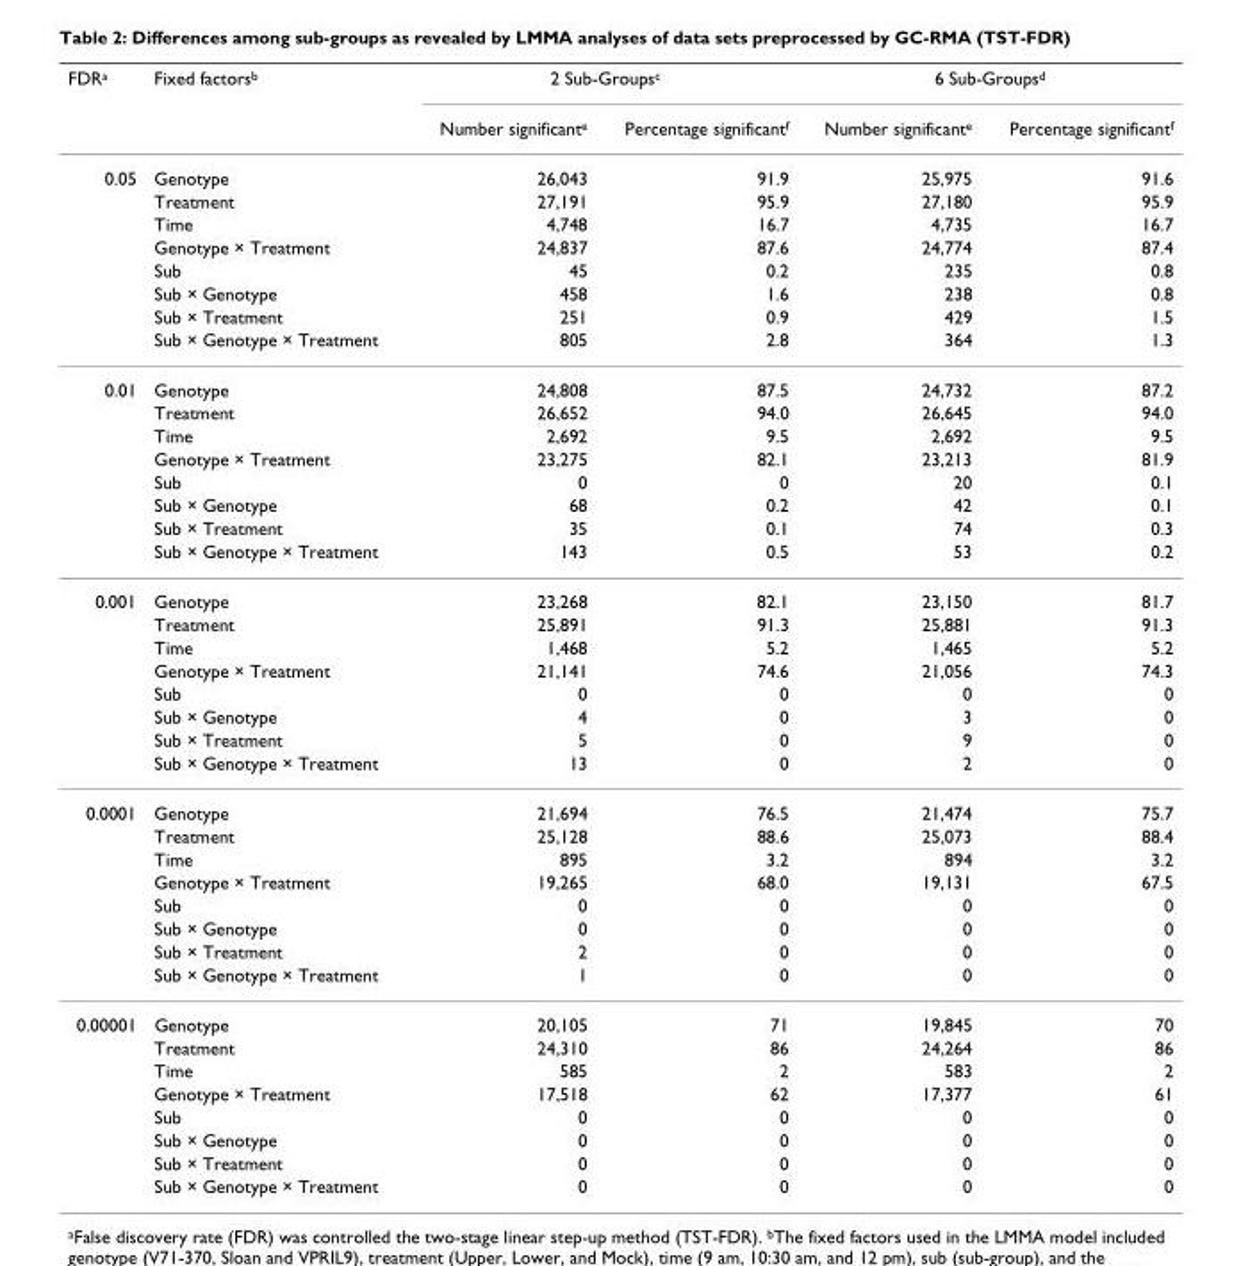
<table><thead><tr><td rowspan="2">FDR<sup>a</sup></td><td rowspan="2">Fixed factors<sup>b</sup></td><td colspan="2">2 Sub-Groups<sup>c</sup></td><td colspan="2">6 Sub-Groups<sup>d</sup></td></tr><tr><td>Number significant<sup>e</sup></td><td>Percentage significant<sup>f</sup></td><td>Number significant<sup>e</sup></td><td>Percentage significant<sup>f</sup></td></tr></thead><tbody><tr><td rowspan="8">0.05</td><td>Genotype</td><td>26,043</td><td>91.9</td><td>25,975</td><td>91.6</td></tr><tr><td>Treatment</td><td>27,191</td><td>95.9</td><td>27,180</td><td>95.9</td></tr><tr><td>Time</td><td>4,748</td><td>16.7</td><td>4,735</td><td>16.7</td></tr><tr><td>Genotype × Treatment</td><td>24,837</td><td>87.6</td><td>24,774</td><td>87.4</td></tr><tr><td>Sub</td><td>45</td><td>0.2</td><td>235</td><td>0.8</td></tr><tr><td>Sub × Genotype</td><td>458</td><td>1.6</td><td>238</td><td>0.8</td></tr><tr><td>Sub × Treatment</td><td>251</td><td>0.9</td><td>429</td><td>1.5</td></tr><tr><td>Sub × Genotype × Treatment</td><td>805</td><td>2.8</td><td>364</td><td>1.3</td></tr><tr><td rowspan="8">0.01</td><td>Genotype</td><td>24,808</td><td>87.5</td><td>24,732</td><td>87.2</td></tr><tr><td>Treatment</td><td>26,652</td><td>94.0</td><td>26,645</td><td>94.0</td></tr><tr><td>Time</td><td>2,692</td><td>9.5</td><td>2,692</td><td>9.5</td></tr><tr><td>Genotype × Treatment</td><td>23,275</td><td>82.1</td><td>23,213</td><td>81.9</td></tr><tr><td>Sub</td><td>0</td><td>0</td><td>20</td><td>0.1</td></tr><tr><td>Sub × Genotype</td><td>68</td><td>0.2</td><td>42</td><td>0.1</td></tr><tr><td>Sub × Treatment</td><td>35</td><td>0.1</td><td>74</td><td>0.3</td></tr><tr><td>Sub × Genotype × Treatment</td><td>143</td><td>0.5</td><td>53</td><td>0.2</td></tr><tr><td rowspan="8">0.001</td><td>Genotype</td><td>23,268</td><td>82.1</td><td>23,150</td><td>81.7</td></tr><tr><td>Treatment</td><td>25,891</td><td>91.3</td><td>25,881</td><td>91.3</td></tr><tr><td>Time</td><td>1,468</td><td>5.2</td><td>1,465</td><td>5.2</td></tr><tr><td>Genotype × Treatment</td><td>21,141</td><td>74.6</td><td>21,056</td><td>74.3</td></tr><tr><td>Sub</td><td>0</td><td>0</td><td>0</td><td>0</td></tr><tr><td>Sub × Genotype</td><td>4</td><td>0</td><td>3</td><td>0</td></tr><tr><td>Sub × Treatment</td><td>5</td><td>0</td><td>9</td><td>0</td></tr><tr><td>Sub × Genotype × Treatment</td><td>13</td><td>0</td><td>2</td><td>0</td></tr><tr><td rowspan="8">0.0001</td><td>Genotype</td><td>21,694</td><td>76.5</td><td>21,474</td><td>75.7</td></tr><tr><td>Treatment</td><td>25,128</td><td>88.6</td><td>25,073</td><td>88.4</td></tr><tr><td>Time</td><td>895</td><td>3.2</td><td>894</td><td>3.2</td></tr><tr><td>Genotype × Treatment</td><td>19,265</td><td>68.0</td><td>19,131</td><td>67.5</td></tr><tr><td>Sub</td><td>0</td><td>0</td><td>0</td><td>0</td></tr><tr><td>Sub × Genotype</td><td>0</td><td>0</td><td>0</td><td>0</td></tr><tr><td>Sub × Treatment</td><td>2</td><td>0</td><td>0</td><td>0</td></tr><tr><td>Sub × Genotype × Treatment</td><td>1</td><td>0</td><td>0</td><td>0</td></tr><tr><td rowspan="8">0.00001</td><td>Genotype</td><td>20,105</td><td>71</td><td>19,845</td><td>70</td></tr><tr><td>Treatment</td><td>24,310</td><td>86</td><td>24,264</td><td>86</td></tr><tr><td>Time</td><td>585</td><td>2</td><td>583</td><td>2</td></tr><tr><td>Genotype × Treatment</td><td>17,518</td><td>62</td><td>17,377</td><td>61</td></tr><tr><td>Sub</td><td>0</td><td>0</td><td>0</td><td>0</td></tr><tr><td>Sub × Genotype</td><td>0</td><td>0</td><td>0</td><td>0</td></tr><tr><td>Sub × Treatment</td><td>0</td><td>0</td><td>0</td><td>0</td></tr><tr><td>Sub × Genotype × Treatment</td><td>0</td><td>0</td><td>0</td><td>0</td></tr></tbody></table>